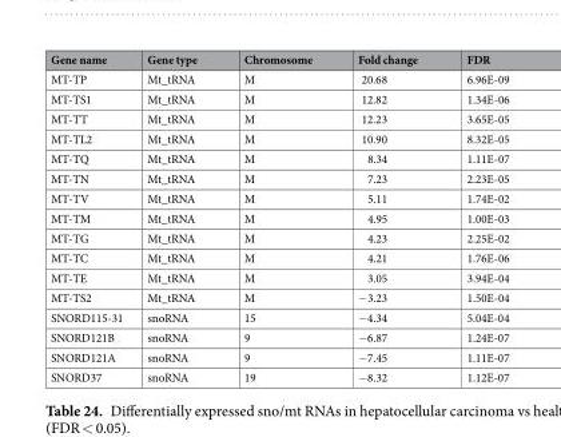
<table><thead><tr><td>Gene name</td><td>Gene type</td><td>Chromosome</td><td>Fold change</td><td>FDR</td></tr></thead><tbody><tr><td>MT-TP</td><td>Mt_tRNA</td><td>M</td><td>20.68</td><td>6.96E-09</td></tr><tr><td>MT-TS1</td><td>Mt_tRNA</td><td>M</td><td>12.82</td><td>1.34E-06</td></tr><tr><td>MT-TT</td><td>Mt_tRNA</td><td>M</td><td>12.23</td><td>3.65E-05</td></tr><tr><td>MT-TL2</td><td>Mt_tRNA</td><td>M</td><td>10.90</td><td>8.32E-05</td></tr><tr><td>MT-TQ</td><td>Mt_tRNA</td><td>M</td><td>8.34</td><td>1.11E-07</td></tr><tr><td>MT-TN</td><td>Mt_tRNA</td><td>M</td><td>7.23</td><td>2.23E-05</td></tr><tr><td>MT-TV</td><td>Mt_tRNA</td><td>M</td><td>5.11</td><td>1.74E-02</td></tr><tr><td>MT-TM</td><td>Mt_tRNA</td><td>M</td><td>4.95</td><td>1.00E-03</td></tr><tr><td>MT-TG</td><td>Mt_tRNA</td><td>M</td><td>4.23</td><td>2.25E-02</td></tr><tr><td>MT-TC</td><td>Mt_tRNA</td><td>M</td><td>4.21</td><td>1.76E-06</td></tr><tr><td>MT-TE</td><td>Mt_tRNA</td><td>M</td><td>3.05</td><td>3.94E-04</td></tr><tr><td>MT-TS2</td><td>Mt_tRNA</td><td>M</td><td>−3.23</td><td>1.50E-04</td></tr><tr><td>SNORD115-31</td><td>snoRNA</td><td>15</td><td>−4.34</td><td>5.04E-04</td></tr><tr><td>SNORD121B</td><td>snoRNA</td><td>9</td><td>−6.87</td><td>1.24E-07</td></tr><tr><td>SNORD121A</td><td>snoRNA</td><td>9</td><td>−7.45</td><td>1.11E-07</td></tr><tr><td>SNORD37</td><td>snoRNA</td><td>19</td><td>−8.32</td><td>1.12E-07</td></tr></tbody></table>